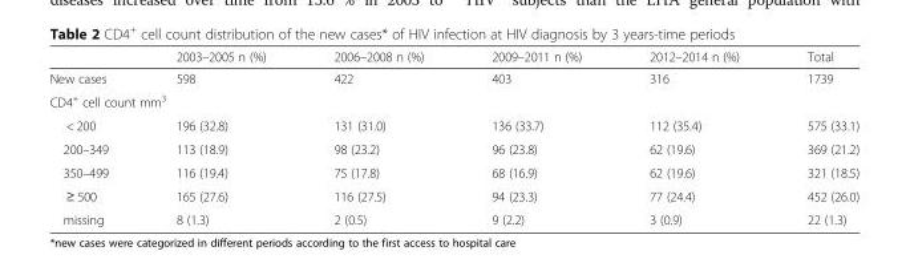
<table><thead><tr><td></td><td>2003–2005 n (%)</td><td>2006–2008 n (%)</td><td>2009–2011 n (%)</td><td>2012–2014 n (%)</td><td>Total</td></tr></thead><tbody><tr><td>New cases</td><td>598</td><td>422</td><td>403</td><td>316</td><td>1739</td></tr><tr><td colspan="6">CD4<sup>+</sup> cell count mm<sup>3</sup></td></tr><tr><td>&lt; 200</td><td>196 (32.8)</td><td>131 (31.0)</td><td>136 (33.7)</td><td>112 (35.4)</td><td>575 (33.1)</td></tr><tr><td>200–349</td><td>113 (18.9)</td><td>98 (23.2)</td><td>96 (23.8)</td><td>62 (19.6)</td><td>369 (21.2)</td></tr><tr><td>350–499</td><td>116 (19.4)</td><td>75 (17.8)</td><td>68 (16.9)</td><td>62 (19.6)</td><td>321 (18.5)</td></tr><tr><td>≥ 500</td><td>165 (27.6)</td><td>116 (27.5)</td><td>94 (23.3)</td><td>77 (24.4)</td><td>452 (26.0)</td></tr><tr><td>missing</td><td>8 (1.3)</td><td>2 (0.5)</td><td>9 (2.2)</td><td>3 (0.9)</td><td>22 (1.3)</td></tr></tbody></table>